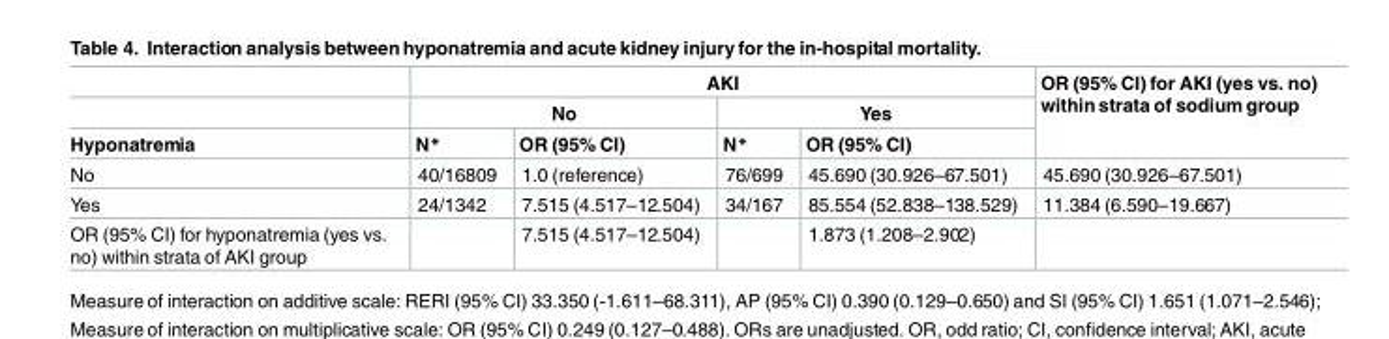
<table><thead><tr><td rowspan="3">Hyponatremia</td><td colspan="4">AKI</td><td rowspan="3">OR (95% CI) for AKI (yes vs. no) within strata of sodium group</td></tr><tr><td colspan="2">No</td><td colspan="2">Yes</td></tr><tr><td>N*</td><td>OR (95% CI)</td><td>N*</td><td>OR (95% CI)</td></tr></thead><tbody><tr><td>No</td><td>40/16809</td><td>1.0 (reference)</td><td>76/699</td><td>45.690 (30.926–67.501)</td><td>45.690 (30.926–67.501)</td></tr><tr><td>Yes</td><td>24/1342</td><td>7.515 (4.517–12.504)</td><td>34/167</td><td>85.554 (52.838–138.529)</td><td>11.384 (6.590–19.667)</td></tr><tr><td>OR (95% CI) for hyponatremia (yes vs. no) within strata of AKI group</td><td></td><td>7.515 (4.517–12.504)</td><td></td><td>1.873 (1.208–2.902)</td><td></td></tr></tbody></table>